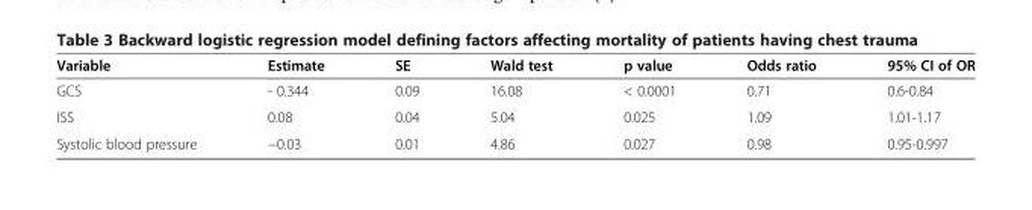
<table><thead><tr><td>Variable</td><td>Estimate</td><td>SE</td><td>Wald test</td><td>p value</td><td>Odds ratio</td><td>95% CI of OR</td></tr></thead><tbody><tr><td>GCS</td><td>- 0.344</td><td>0.09</td><td>16.08</td><td>&lt; 0.0001</td><td>0.71</td><td>0.6-0.84</td></tr><tr><td>ISS</td><td>0.08</td><td>0.04</td><td>5.04</td><td>0.025</td><td>1.09</td><td>1.01-1.17</td></tr><tr><td>Systolic blood pressure</td><td>−0.03</td><td>0.01</td><td>4.86</td><td>0.027</td><td>0.98</td><td>0.95-0.997</td></tr></tbody></table>